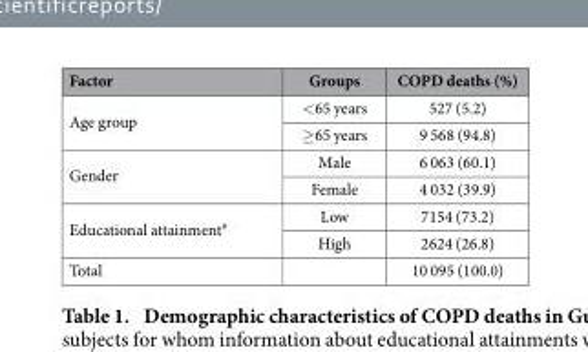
<table><thead><tr><td>Factor</td><td>Groups</td><td>COPD deaths (%)</td></tr></thead><tbody><tr><td rowspan="2">Age group</td><td>&lt; 65 years</td><td>527 (5.2)</td></tr><tr><td>≥ 65 years</td><td>9 568 (94.8)</td></tr><tr><td rowspan="2">Gender</td><td>Male</td><td>6 063 (60.1)</td></tr><tr><td>Female</td><td>4 032 (39.9)</td></tr><tr><td rowspan="2">Educational attainment#</td><td>Low</td><td>7154 (73.2)</td></tr><tr><td>High</td><td>2624 (26.8)</td></tr><tr><td>Total</td><td></td><td>10 095 (100.0)</td></tr></tbody></table>